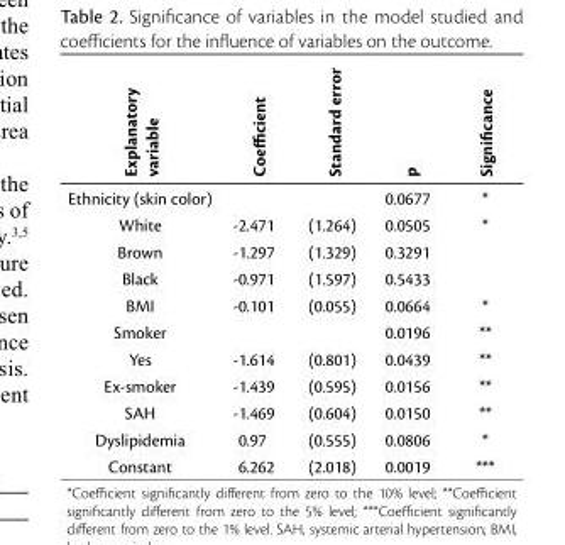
<table><thead><tr><td>Explanatory variable</td><td>Coefficient</td><td>Standard error</td><td>p</td><td>Significance</td></tr></thead><tbody><tr><td>Ethnicity (skin color)</td><td></td><td></td><td>0.0677</td><td>*</td></tr><tr><td>White</td><td>-2.471</td><td>(1.264)</td><td>0.0505</td><td>*</td></tr><tr><td>Brown</td><td>-1.297</td><td>(1.329)</td><td>0.3291</td><td></td></tr><tr><td>Black</td><td>-0.971</td><td>(1.597)</td><td>0.5433</td><td></td></tr><tr><td>BMI</td><td>-0.101</td><td>(0.055)</td><td>0.0664</td><td>*</td></tr><tr><td>Smoker</td><td></td><td></td><td>0.0196</td><td>**</td></tr><tr><td>Yes</td><td>-1.614</td><td>(0.801)</td><td>0.0439</td><td>**</td></tr><tr><td>Ex-smoker</td><td>-1.439</td><td>(0.595)</td><td>0.0156</td><td>**</td></tr><tr><td>SAH</td><td>-1.469</td><td>(0.604)</td><td>0.0150</td><td>**</td></tr><tr><td>Dyslipidemia</td><td>0.97</td><td>(0.555)</td><td>0.0806</td><td>*</td></tr><tr><td>Constant</td><td>6.262</td><td>(2.018)</td><td>0.0019</td><td>***</td></tr></tbody></table>